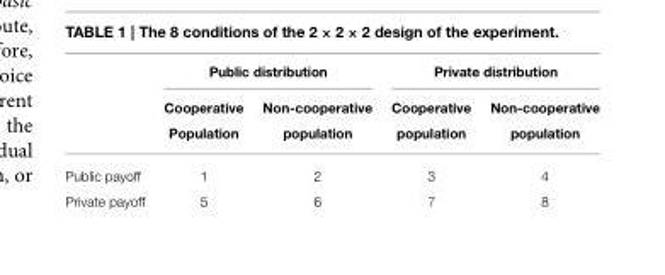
<table><thead><tr><td rowspan="2"></td><td colspan="2">Public distribution</td><td colspan="2">Private distribution</td></tr><tr><td>Cooperative Population</td><td>Non-cooperative population</td><td>Cooperative population</td><td>Non-cooperative population</td></tr></thead><tbody><tr><td>Public payoff</td><td>1</td><td>2</td><td>3</td><td>4</td></tr><tr><td>Private payoff</td><td>5</td><td>6</td><td>7</td><td>8</td></tr></tbody></table>